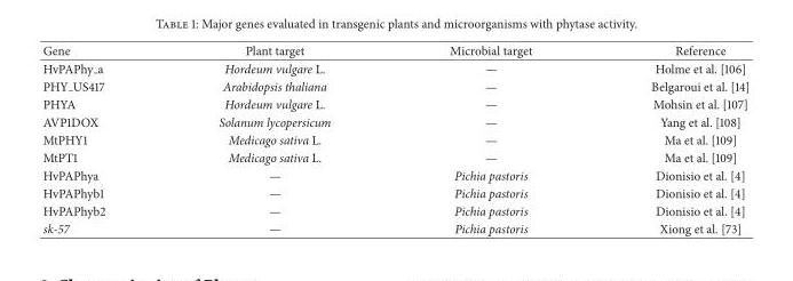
<table><thead><tr><td>Gene</td><td>Plant target</td><td>Microbial target</td><td>Reference</td></tr></thead><tbody><tr><td>HvPAPhy a</td><td>Hordeum vulgare L.</td><td>—</td><td>Holme et al. [106]</td></tr><tr><td>PHY US417</td><td>Arabidopsis thaliana</td><td>—</td><td>Belgaroui et al. [14]</td></tr><tr><td>PHYA</td><td>Hordeum vulgare L.</td><td>—</td><td>Mohsin et al. [107]</td></tr><tr><td>AVP1DOX</td><td>Solanum lycopersicum</td><td>—</td><td>Yang et al. [108]</td></tr><tr><td>MtPHY1</td><td>Medicago sativa L.</td><td>—</td><td>Ma et al. [109]</td></tr><tr><td>MtPT1</td><td>Medicago sativa L.</td><td>—</td><td>Ma et al. [109]</td></tr><tr><td>HvPAPhya</td><td>—</td><td>Pichia pastoris</td><td>Dionisio et al. [4]</td></tr><tr><td>HvPAPhyb1</td><td>—</td><td>Pichia pastoris</td><td>Dionisio et al. [4]</td></tr><tr><td>HvPAPhyb2</td><td>—</td><td>Pichia pastoris</td><td>Dionisio et al. [4]</td></tr><tr><td>sk-57</td><td>—</td><td>Pichia pastoris</td><td>Xiong et al. [73]</td></tr></tbody></table>